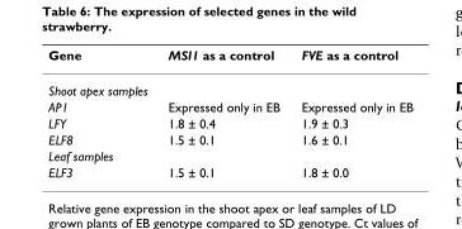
<table><thead><tr><td>Gene</td><td>MSI1 as a control</td><td>FVE as a control</td></tr></thead><tbody><tr><td colspan="3">Shoot apex samples</td></tr><tr><td>AP1</td><td>Expressed only in EB</td><td>Expressed only in EB</td></tr><tr><td>LFY</td><td>1.8 ± 0.4</td><td>1.9 ± 0.3</td></tr><tr><td>ELF8</td><td>1.5 ± 0.1</td><td>1.6 ± 0.1</td></tr><tr><td colspan="3">Leaf samples</td></tr><tr><td>ELF3</td><td>1.5 ± 0.1</td><td>1.8 ± 0.0</td></tr></tbody></table>